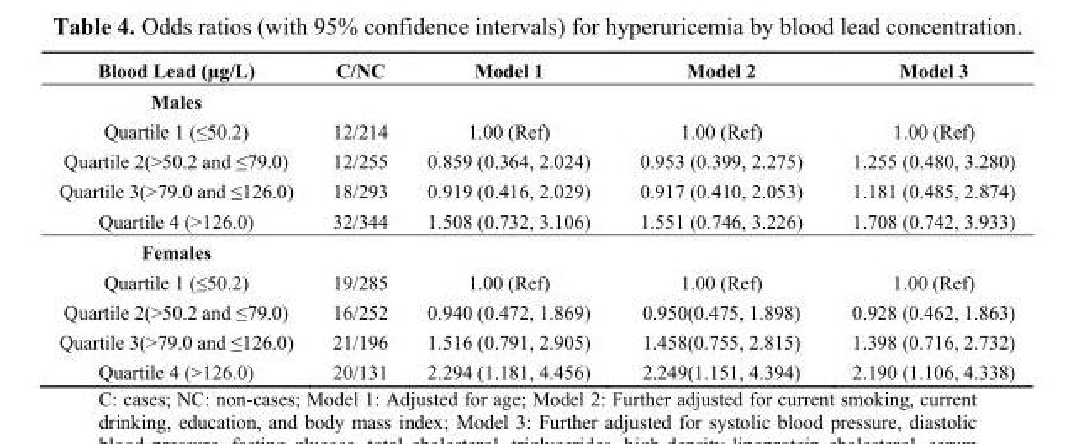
<table><thead><tr><td>Blood Lead (µg/L)</td><td>C/NC</td><td>Model 1</td><td>Model 2</td><td>Model 3</td></tr></thead><tbody><tr><td colspan="5">Males</td></tr><tr><td>Quartile 1 (≤50.2)</td><td>12/214</td><td>1.00 (Ref)</td><td>1.00 (Ref)</td><td>1.00 (Ref)</td></tr><tr><td>Quartile 2(&gt;50.2 and ≤79.0)</td><td>12/255</td><td>0.859 (0.364, 2.024)</td><td>0.953 (0.399, 2.275)</td><td>1.255 (0.480, 3.280)</td></tr><tr><td>Quartile 3(&gt;79.0 and ≤126.0)</td><td>18/293</td><td>0.919 (0.416, 2.029)</td><td>0.917 (0.410, 2.053)</td><td>1.181 (0.485, 2.874)</td></tr><tr><td>Quartile 4 (&gt;126.0)</td><td>32/344</td><td>1.508 (0.732, 3.106)</td><td>1.551 (0.746, 3.226)</td><td>1.708 (0.742, 3.933)</td></tr><tr><td colspan="5">Females</td></tr><tr><td>Quartile 1 (≤50.2)</td><td>19/285</td><td>1.00 (Ref)</td><td>1.00 (Ref)</td><td>1.00 (Ref)</td></tr><tr><td>Quartile 2(&gt;50.2 and ≤79.0)</td><td>16/252</td><td>0.940 (0.472, 1.869)</td><td>0.950(0.475, 1.898)</td><td>0.928 (0.462, 1.863)</td></tr><tr><td>Quartile 3(&gt;79.0 and ≤126.0)</td><td>21/196</td><td>1.516 (0.791, 2.905)</td><td>1.458(0.755, 2.815)</td><td>1.398 (0.716, 2.732)</td></tr><tr><td>Quartile 4 (&gt;126.0)</td><td>20/131</td><td>2.294 (1.181, 4.456)</td><td>2.249(1.151, 4.394)</td><td>2.190 (1.106, 4.338)</td></tr></tbody></table>